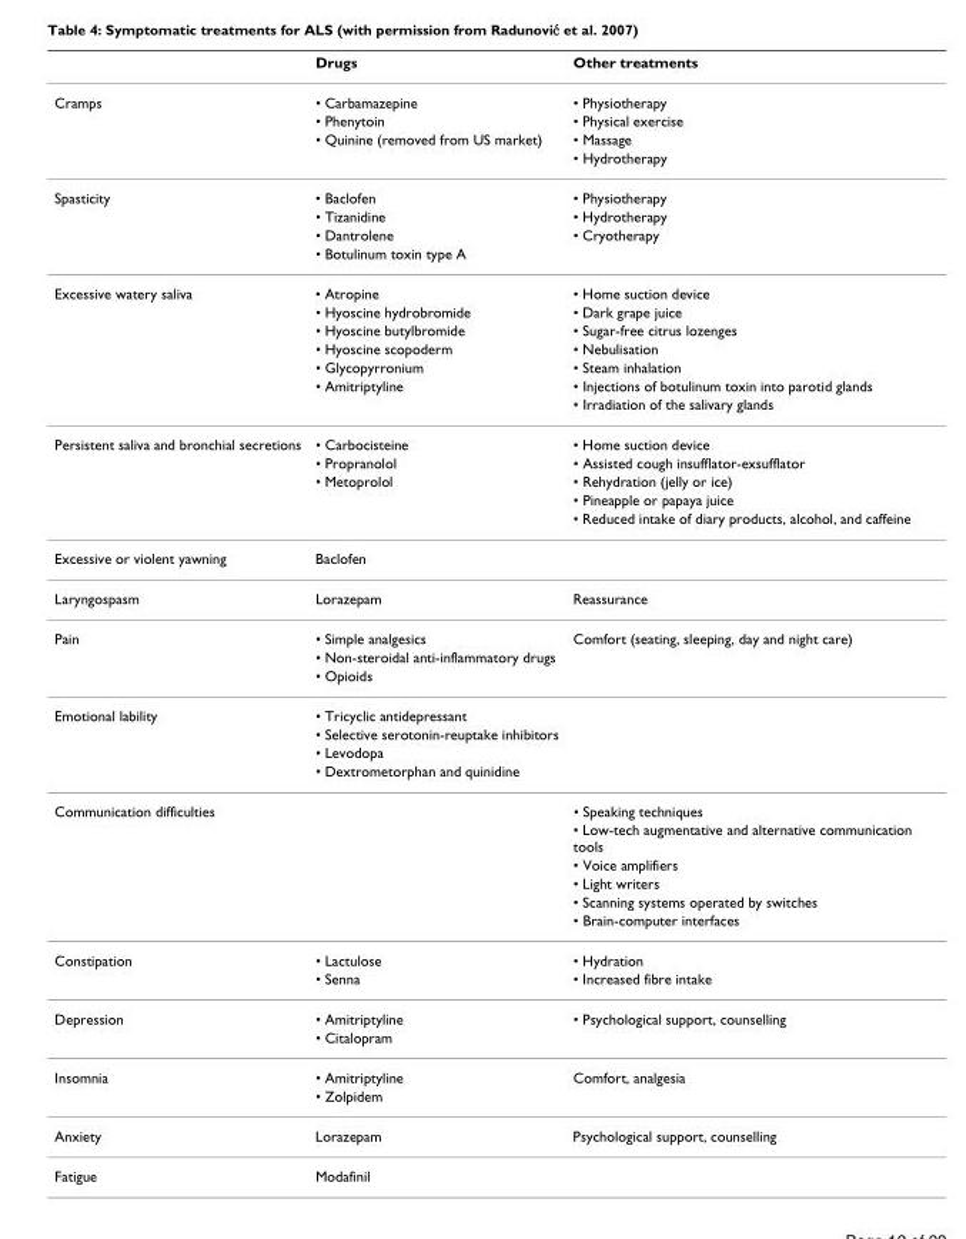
<table><thead><tr><td></td><td>Drugs</td><td>Other treatments</td></tr></thead><tbody><tr><td rowspan="4">Cramps</td><td>• Carbamazepine</td><td>• Physiotherapy</td></tr><tr><td>• Phenytoin</td><td>• Physical exercise</td></tr><tr><td>• Quinine (removed from US market)</td><td>• Massage</td></tr><tr><td></td><td>• Hydrotherapy</td></tr><tr><td rowspan="4">Spasticity</td><td>• Baclofen</td><td>• Physiotherapy</td></tr><tr><td>• Tizanidine</td><td>• Hydrotherapy</td></tr><tr><td>• Dantrolene</td><td>• Cryotherapy</td></tr><tr><td>• Botulinum toxin type A</td><td></td></tr><tr><td rowspan="7">Excessive watery saliva</td><td>• Atropine</td><td>• Home suction device</td></tr><tr><td>• Hyoscine hydrobromide</td><td>• Dark grape juice</td></tr><tr><td>• Hyoscine butylbromide</td><td>• Sugar-free citrus lozenges</td></tr><tr><td>• Hyoscine scopoderm</td><td>• Nebulisation</td></tr><tr><td>• Glycopyrronium</td><td>• Steam inhalation</td></tr><tr><td>• Amitriptyline</td><td>• Injections of botulinum toxin into parotid glands</td></tr><tr><td></td><td>• Irradiation of the salivary glands</td></tr><tr><td rowspan="5">Persistent saliva and bronchial secretions</td><td>• Carbocisteine</td><td>• Home suction device</td></tr><tr><td>• Propranolol</td><td>• Assisted cough insufflator-exsufflator</td></tr><tr><td>• Metoprolol</td><td>• Rehydration (jelly or ice)</td></tr><tr><td></td><td>• Pineapple or papaya juice</td></tr><tr><td></td><td>• Reduced intake of diary products, alcohol, and caffeine</td></tr><tr><td>Excessive or violent yawning</td><td>Baclofen</td><td></td></tr><tr><td>Laryngospasm</td><td>Lorazepam</td><td>Reassurance</td></tr><tr><td rowspan="3">Pain</td><td>• Simple analgesics</td><td>Comfort (seating, sleeping, day and night care)</td></tr><tr><td>• Non-steroidal anti-inflammatory drugs</td><td></td></tr><tr><td>• Opioids</td><td></td></tr><tr><td rowspan="4">Emotional lability</td><td>• Tricyclic antidepressant</td><td></td></tr><tr><td>• Selective serotonin-reuptake inhibitors</td><td></td></tr><tr><td>• Levodopa</td><td></td></tr><tr><td>• Dextrometorphan and quinidine</td><td></td></tr><tr><td rowspan="6">Communication difficulties</td><td></td><td>• Speaking techniques</td></tr><tr><td></td><td>• Low-tech augmentative and alternative communication tools</td></tr><tr><td></td><td>• Voice amplifiers</td></tr><tr><td></td><td>• Light writers</td></tr><tr><td></td><td>• Scanning systems operated by switches</td></tr><tr><td></td><td>• Brain-computer interfaces</td></tr><tr><td rowspan="2">Constipation</td><td>• Lactulose</td><td>• Hydration</td></tr><tr><td>• Senna</td><td>• Increased fibre intake</td></tr><tr><td rowspan="2">Depression</td><td>• Amitriptyline</td><td>• Psychological support, counselling</td></tr><tr><td>• Citalopram</td><td></td></tr><tr><td rowspan="2">Insomnia</td><td>• Amitriptyline</td><td>Comfort, analgesia</td></tr><tr><td>• Zolpidem</td><td></td></tr><tr><td>Anxiety</td><td>Lorazepam</td><td>Psychological support, counselling</td></tr><tr><td>Fatigue</td><td>Modafinil</td><td></td></tr></tbody></table>